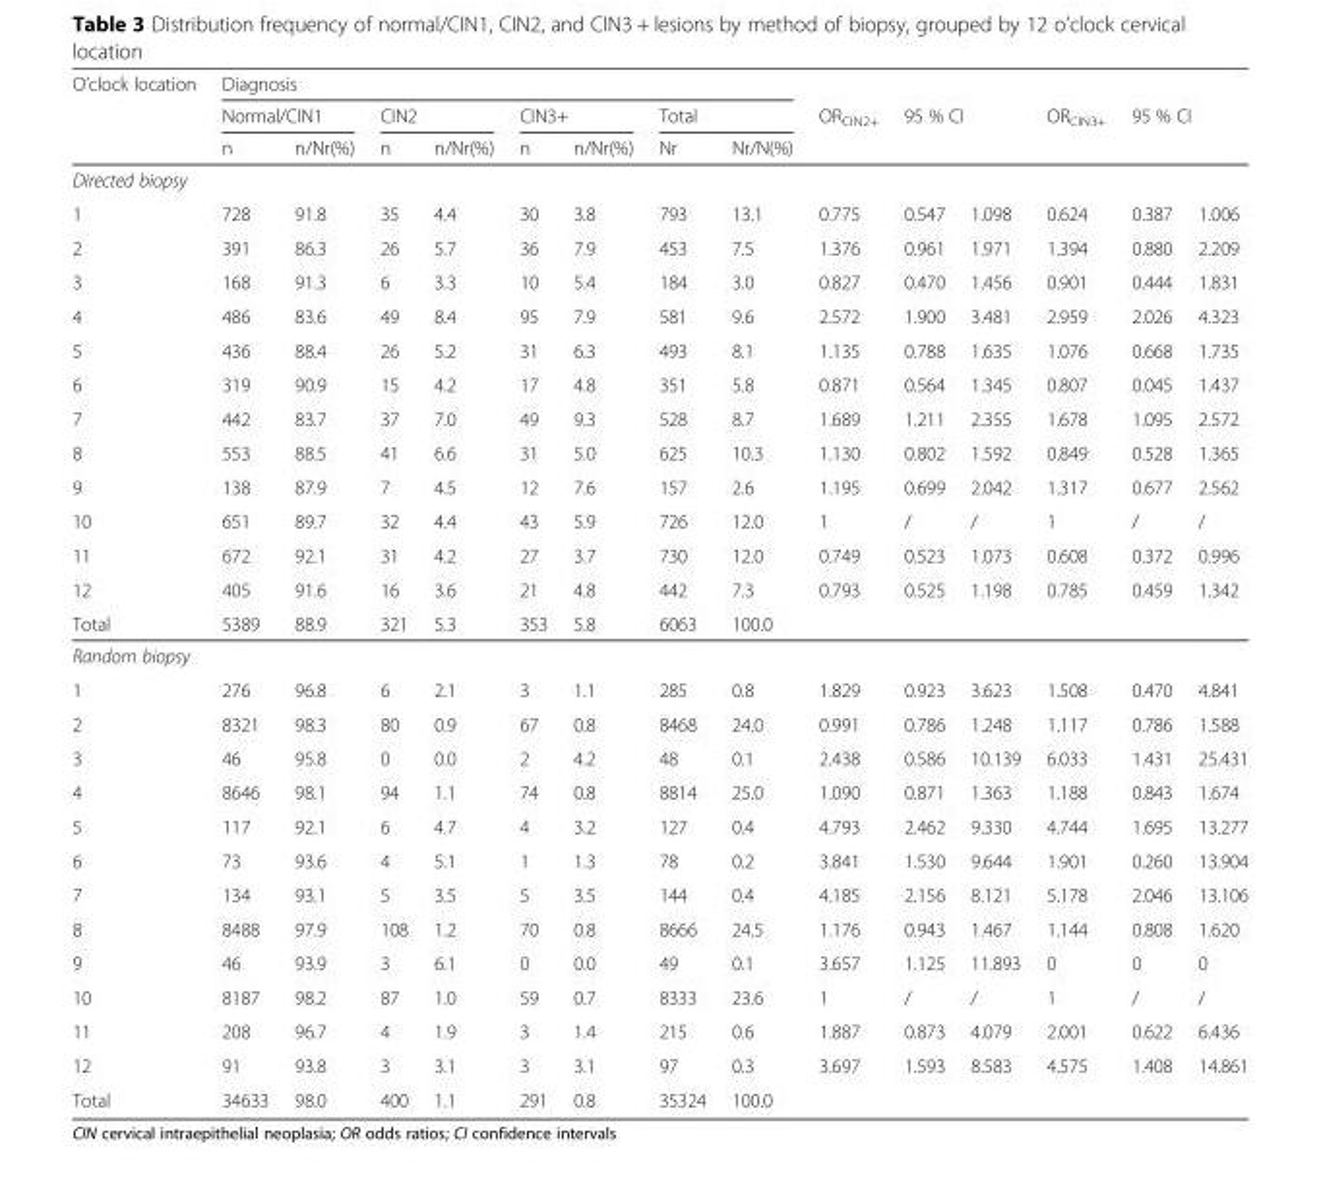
<table><thead><tr><td rowspan="3">O’clock location</td><td colspan="8">Diagnosis</td><td rowspan="3">OR<sub>CIN2+</sub></td><td></td><td></td><td rowspan="3">OR<sub>CIN3+</sub></td><td></td><td></td></tr><tr><td colspan="2">Normal/CIN1</td><td colspan="2">CIN2</td><td colspan="2">CIN3+</td><td colspan="2">Total</td><td colspan="2">95 % CI</td><td colspan="2">95 % CI</td></tr><tr><td>n</td><td>n/Nr(%)</td><td>n</td><td>n/Nr(%)</td><td>n</td><td>n/Nr(%)</td><td>Nr</td><td>Nr/N(%)</td><td></td><td></td><td></td><td></td></tr></thead><tbody><tr><td colspan="15">Directed biopsy</td></tr><tr><td>1</td><td>728</td><td>91.8</td><td>35</td><td>4.4</td><td>30</td><td>3.8</td><td>793</td><td>13.1</td><td>0.775</td><td>0.547</td><td>1.098</td><td>0.624</td><td>0.387</td><td>1.006</td></tr><tr><td>2</td><td>391</td><td>86.3</td><td>26</td><td>5.7</td><td>36</td><td>7.9</td><td>453</td><td>7.5</td><td>1.376</td><td>0.961</td><td>1.971</td><td>1.394</td><td>0.880</td><td>2.209</td></tr><tr><td>3</td><td>168</td><td>91.3</td><td>6</td><td>3.3</td><td>10</td><td>5.4</td><td>184</td><td>3.0</td><td>0.827</td><td>0.470</td><td>1.456</td><td>0.901</td><td>0.444</td><td>1.831</td></tr><tr><td>4</td><td>486</td><td>83.6</td><td>49</td><td>8.4</td><td>95</td><td>7.9</td><td>581</td><td>9.6</td><td>2.572</td><td>1.900</td><td>3.481</td><td>2.959</td><td>2.026</td><td>4.323</td></tr><tr><td>5</td><td>436</td><td>88.4</td><td>26</td><td>5.2</td><td>31</td><td>6.3</td><td>493</td><td>8.1</td><td>1.135</td><td>0.788</td><td>1.635</td><td>1.076</td><td>0.668</td><td>1.735</td></tr><tr><td>6</td><td>319</td><td>90.9</td><td>15</td><td>4.2</td><td>17</td><td>4.8</td><td>351</td><td>5.8</td><td>0.871</td><td>0.564</td><td>1.345</td><td>0.807</td><td>0.045</td><td>1.437</td></tr><tr><td>7</td><td>442</td><td>83.7</td><td>37</td><td>7.0</td><td>49</td><td>9.3</td><td>528</td><td>8.7</td><td>1.689</td><td>1.211</td><td>2.355</td><td>1.678</td><td>1.095</td><td>2.572</td></tr><tr><td>8</td><td>553</td><td>88.5</td><td>41</td><td>6.6</td><td>31</td><td>5.0</td><td>625</td><td>10.3</td><td>1.130</td><td>0.802</td><td>1.592</td><td>0.849</td><td>0.528</td><td>1.365</td></tr><tr><td>9</td><td>138</td><td>87.9</td><td>7</td><td>4.5</td><td>12</td><td>7.6</td><td>157</td><td>2.6</td><td>1.195</td><td>0.699</td><td>2.042</td><td>1.317</td><td>0.677</td><td>2.562</td></tr><tr><td>10</td><td>651</td><td>89.7</td><td>32</td><td>4.4</td><td>43</td><td>5.9</td><td>726</td><td>12.0</td><td>1</td><td>/</td><td>/</td><td>1</td><td>/</td><td>/</td></tr><tr><td>11</td><td>672</td><td>92.1</td><td>31</td><td>4.2</td><td>27</td><td>3.7</td><td>730</td><td>12.0</td><td>0.749</td><td>0.523</td><td>1.073</td><td>0.608</td><td>0.372</td><td>0.996</td></tr><tr><td>12</td><td>405</td><td>91.6</td><td>16</td><td>3.6</td><td>21</td><td>4.8</td><td>442</td><td>7.3</td><td>0.793</td><td>0.525</td><td>1.198</td><td>0.785</td><td>0.459</td><td>1.342</td></tr><tr><td>Total</td><td>5389</td><td>88.9</td><td>321</td><td>5.3</td><td>353</td><td>5.8</td><td>6063</td><td>100.0</td><td></td><td></td><td></td><td></td><td></td><td></td></tr><tr><td colspan="15">Random biopsy</td></tr><tr><td>1</td><td>276</td><td>96.8</td><td>6</td><td>2.1</td><td>3</td><td>1.1</td><td>285</td><td>0.8</td><td>1.829</td><td>0.923</td><td>3.623</td><td>1.508</td><td>0.470</td><td>4.841</td></tr><tr><td>2</td><td>8321</td><td>98.3</td><td>80</td><td>0.9</td><td>67</td><td>0.8</td><td>8468</td><td>24.0</td><td>0.991</td><td>0.786</td><td>1.248</td><td>1.117</td><td>0.786</td><td>1.588</td></tr><tr><td>3</td><td>46</td><td>95.8</td><td>0</td><td>0.0</td><td>2</td><td>4.2</td><td>48</td><td>0.1</td><td>2.438</td><td>0.586</td><td>10.139</td><td>6.033</td><td>1.431</td><td>25.431</td></tr><tr><td>4</td><td>8646</td><td>98.1</td><td>94</td><td>1.1</td><td>74</td><td>0.8</td><td>8814</td><td>25.0</td><td>1.090</td><td>0.871</td><td>1.363</td><td>1.188</td><td>0.843</td><td>1.674</td></tr><tr><td>5</td><td>117</td><td>92.1</td><td>6</td><td>4.7</td><td>4</td><td>3.2</td><td>127</td><td>0.4</td><td>4.793</td><td>2.462</td><td>9.330</td><td>4.744</td><td>1.695</td><td>13.277</td></tr><tr><td>6</td><td>73</td><td>93.6</td><td>4</td><td>5.1</td><td>1</td><td>1.3</td><td>78</td><td>0.2</td><td>3.841</td><td>1.530</td><td>9.644</td><td>1.901</td><td>0.260</td><td>13.904</td></tr><tr><td>7</td><td>134</td><td>93.1</td><td>5</td><td>3.5</td><td>5</td><td>3.5</td><td>144</td><td>0.4</td><td>4.185</td><td>2.156</td><td>8.121</td><td>5.178</td><td>2.046</td><td>13.106</td></tr><tr><td>8</td><td>8488</td><td>97.9</td><td>108</td><td>1.2</td><td>70</td><td>0.8</td><td>8666</td><td>24.5</td><td>1.176</td><td>0.943</td><td>1.467</td><td>1.144</td><td>0.808</td><td>1.620</td></tr><tr><td>9</td><td>46</td><td>93.9</td><td>3</td><td>6.1</td><td>0</td><td>0.0</td><td>49</td><td>0.1</td><td>3.657</td><td>1.125</td><td>11.893</td><td>0</td><td>0</td><td>0</td></tr><tr><td>10</td><td>8187</td><td>98.2</td><td>87</td><td>1.0</td><td>59</td><td>0.7</td><td>8333</td><td>23.6</td><td>1</td><td>/</td><td>/</td><td>1</td><td>/</td><td>/</td></tr><tr><td>11</td><td>208</td><td>96.7</td><td>4</td><td>1.9</td><td>3</td><td>1.4</td><td>215</td><td>0.6</td><td>1.887</td><td>0.873</td><td>4.079</td><td>2.001</td><td>0.622</td><td>6.436</td></tr><tr><td>12</td><td>91</td><td>93.8</td><td>3</td><td>3.1</td><td>3</td><td>3.1</td><td>97</td><td>0.3</td><td>3.697</td><td>1.593</td><td>8.583</td><td>4.575</td><td>1.408</td><td>14.861</td></tr><tr><td>Total</td><td>34633</td><td>98.0</td><td>400</td><td>1.1</td><td>291</td><td>0.8</td><td>35324</td><td>100.0</td><td></td><td></td><td></td><td></td><td></td><td></td></tr></tbody></table>